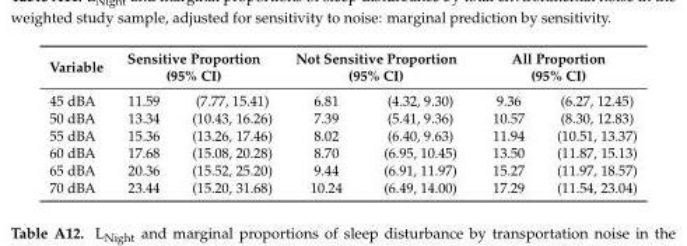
<table><thead><tr><td rowspan="2">Variable 45 dBA</td><td colspan="2">Sensitive Proportion (95% CI)</td><td colspan="2">Not Sensitive Proportion (95% CI)</td><td colspan="2">All Proportion (95% CI)</td></tr><tr><td>11.59</td><td>(7.77, 15.41)</td><td>6.81</td><td>(4.32, 9.30)</td><td>9.36</td><td>(6.27, 12.45)</td></tr></thead><tbody><tr><td>50 dBA</td><td>13.34</td><td>(10.43, 16.26)</td><td>7.39</td><td>(5.41, 9.36)</td><td>10.57</td><td>(8.30, 12.83)</td></tr><tr><td>55 dBA</td><td>15.36</td><td>(13.26, 17.46)</td><td>8.02</td><td>(6.40, 9.63)</td><td>11.94</td><td>(10.51, 13.37)</td></tr><tr><td>60 dBA</td><td>17.68</td><td>(15.08, 20.28)</td><td>8.70</td><td>(6.95, 10.45)</td><td>13.50</td><td>(11.87, 15.13)</td></tr><tr><td>65 dBA</td><td>20.36</td><td>(15.52, 25.20)</td><td>9.44</td><td>(6.91, 11.97)</td><td>15.27</td><td>(11.97, 18.57)</td></tr><tr><td>70 dBA</td><td>23.44</td><td>(15.20, 31.68)</td><td>10.24</td><td>(6.49, 14.00)</td><td>17.29</td><td>(11.54, 23.04)</td></tr></tbody></table>